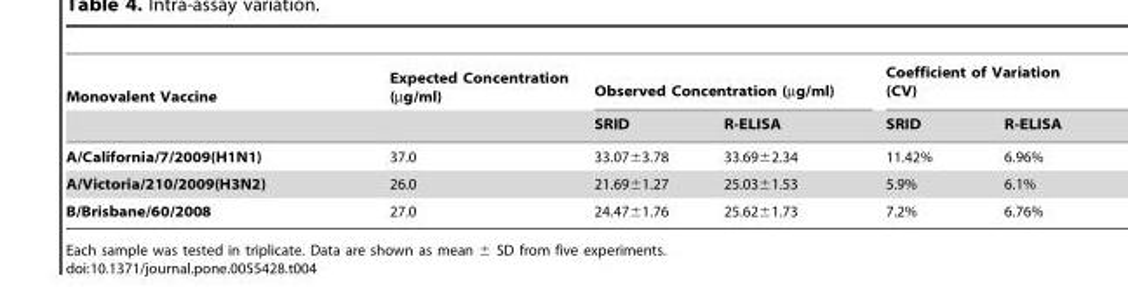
<table><thead><tr><td rowspan="2">Monovalent Vaccine</td><td rowspan="2">Expected Concentration (µg/ml)</td><td colspan="2">Observed Concentration (µg/ml)</td><td colspan="2">Coefficient of Variation (CV)</td></tr><tr><td>SRID</td><td>R-ELISA</td><td>SRID</td><td>R-ELISA</td></tr></thead><tbody><tr><td>A/California/7/2009(H1N1)</td><td>37.0</td><td>33.07±3.78</td><td>33.69±2.34</td><td>11.42%</td><td>6.96%</td></tr><tr><td>A/Victoria/210/2009(H3N2)</td><td>26.0</td><td>21.69±1.27</td><td>25.03±1.53</td><td>5.9%</td><td>6.1%</td></tr><tr><td>B/Brisbane/60/2008</td><td>27.0</td><td>24.47±1.76</td><td>25.62±1.73</td><td>7.2%</td><td>6.76%</td></tr></tbody></table>